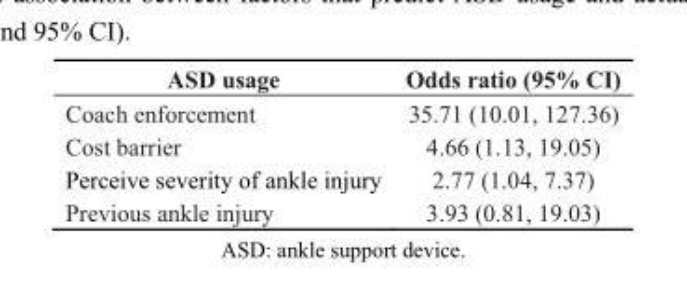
<table><thead><tr><td>ASD usage</td><td>Odds ratio (95% CI)</td></tr></thead><tbody><tr><td>Coach enforcement</td><td>35.71 (10.01, 127.36)</td></tr><tr><td>Cost barrier</td><td>4.66 (1.13, 19.05)</td></tr><tr><td>Perceive severity of ankle injury</td><td>2.77 (1.04, 7.37)</td></tr><tr><td>Previous ankle injury</td><td>3.93 (0.81, 19.03)</td></tr></tbody></table>